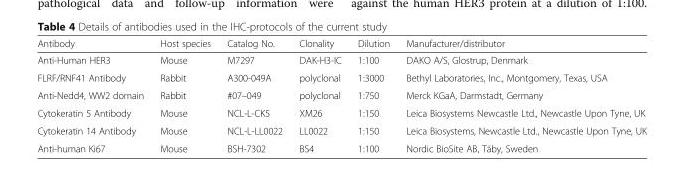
<table><thead><tr><td>Antibody</td><td>Host species</td><td>Catalog No.</td><td>Clonality</td><td>Dilution</td><td>Manufacturer/distributor</td></tr></thead><tbody><tr><td>Anti-Human HER3</td><td>Mouse</td><td>M7297</td><td>DAK-H3-IC</td><td>1:100</td><td>DAKO A/S, Glostrup, Denmark</td></tr><tr><td>FLRF/RNF41 Antibody</td><td>Rabbit</td><td>A300-049A</td><td>polyclonal</td><td>1:3000</td><td>Bethyl Laboratories, Inc., Montgomery, Texas, USA</td></tr><tr><td>Anti-Nedd4, WW2 domain</td><td>Rabbit</td><td>#07–049</td><td>polyclonal</td><td>1:750</td><td>Merck KGaA, Darmstadt, Germany</td></tr><tr><td>Cytokeratin 5 Antibody</td><td>Mouse</td><td>NCL-L-CK5</td><td>XM26</td><td>1:150</td><td>Leica Biosystems Newcastle Ltd., Newcastle Upon Tyne, UK</td></tr><tr><td>Cytokeratin 14 Antibody</td><td>Mouse</td><td>NCL-L-LL0022</td><td>LL0022</td><td>1:150</td><td>Leica Biosystems, Newcastle Ltd., Newcastle Upon Tyne, UK</td></tr><tr><td>Anti-human Ki67</td><td>Mouse</td><td>BSH-7302</td><td>BS4</td><td>1:100</td><td>Nordic BioSite AB, Täby, Sweden</td></tr></tbody></table>